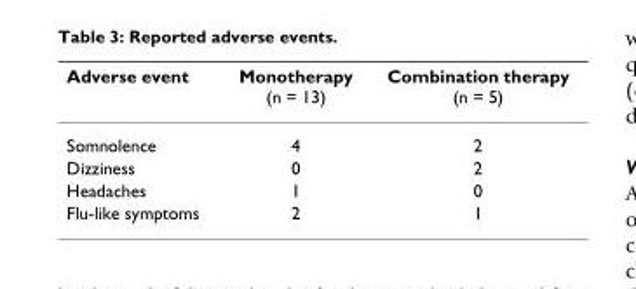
<table><thead><tr><td>Adverse event</td><td>Monotherapy (n = 13)</td><td>Combination therapy (n = 5)</td></tr></thead><tbody><tr><td>Somnolence</td><td>4</td><td>2</td></tr><tr><td>Dizziness</td><td>0</td><td>2</td></tr><tr><td>Headaches</td><td>1</td><td>0</td></tr><tr><td>Flu-like symptoms</td><td>2</td><td>1</td></tr></tbody></table>